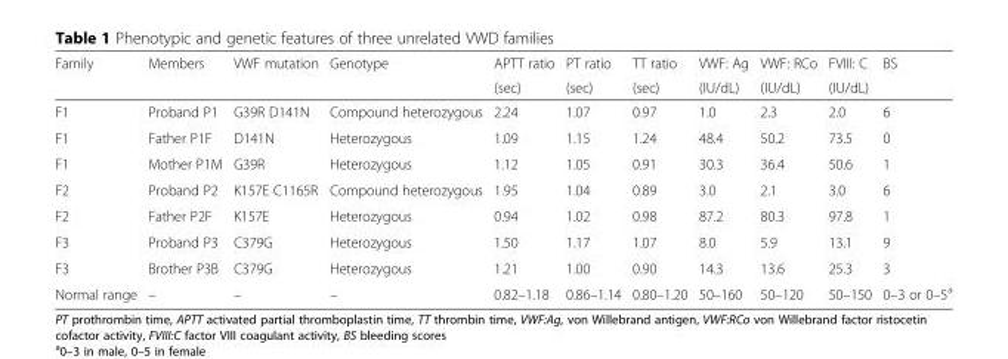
<table><thead><tr><td rowspan="2">Family</td><td rowspan="2">Members</td><td rowspan="2">VWF mutation</td><td rowspan="2">Genotype</td><td rowspan="2">APTT ratio (sec)</td><td rowspan="2">PT ratio (sec)</td><td rowspan="2">TT ratio (sec)</td><td rowspan="2">VWF: Ag (IU/dL)</td><td rowspan="2">VWF: RCo (IU/dL)</td><td rowspan="2">FVIII: C (IU/dL)</td><td rowspan="2">BS</td></tr><tr></tr></thead><tbody><tr><td>F1</td><td>Proband P1</td><td>G39R D141N</td><td>Compound heterozygous</td><td>2.24</td><td>1.07</td><td>0.97</td><td>1.0</td><td>2.3</td><td>2.0</td><td>6</td></tr><tr><td>F1</td><td>Father P1F</td><td>D141N</td><td>Heterozygous</td><td>1.09</td><td>1.15</td><td>1.24</td><td>48.4</td><td>50.2</td><td>73.5</td><td>0</td></tr><tr><td>F1</td><td>Mother P1M</td><td>G39R</td><td>Heterozygous</td><td>1.12</td><td>1.05</td><td>0.91</td><td>30.3</td><td>36.4</td><td>50.6</td><td>1</td></tr><tr><td>F2</td><td>Proband P2</td><td>K157E C1165R</td><td>Compound heterozygous</td><td>1.95</td><td>1.04</td><td>0.89</td><td>3.0</td><td>2.1</td><td>3.0</td><td>6</td></tr><tr><td>F2</td><td>Father P2F</td><td>K157E</td><td>Heterozygous</td><td>0.94</td><td>1.02</td><td>0.98</td><td>87.2</td><td>80.3</td><td>97.8</td><td>1</td></tr><tr><td>F3</td><td>Proband P3</td><td>C379G</td><td>Heterozygous</td><td>1.50</td><td>1.17</td><td>1.07</td><td>8.0</td><td>5.9</td><td>13.1</td><td>9</td></tr><tr><td>F3</td><td>Brother P3B</td><td>C379G</td><td>Heterozygous</td><td>1.21</td><td>1.00</td><td>0.90</td><td>14.3</td><td>13.6</td><td>25.3</td><td>3</td></tr><tr><td>Normal range</td><td>–</td><td>–</td><td>–</td><td>0.82–1.18</td><td>0.86–1.14</td><td>0.80–1.20</td><td>50–160</td><td>50–120</td><td>50–150</td><td>0–3 or 0–5<sup>a</sup></td></tr></tbody></table>